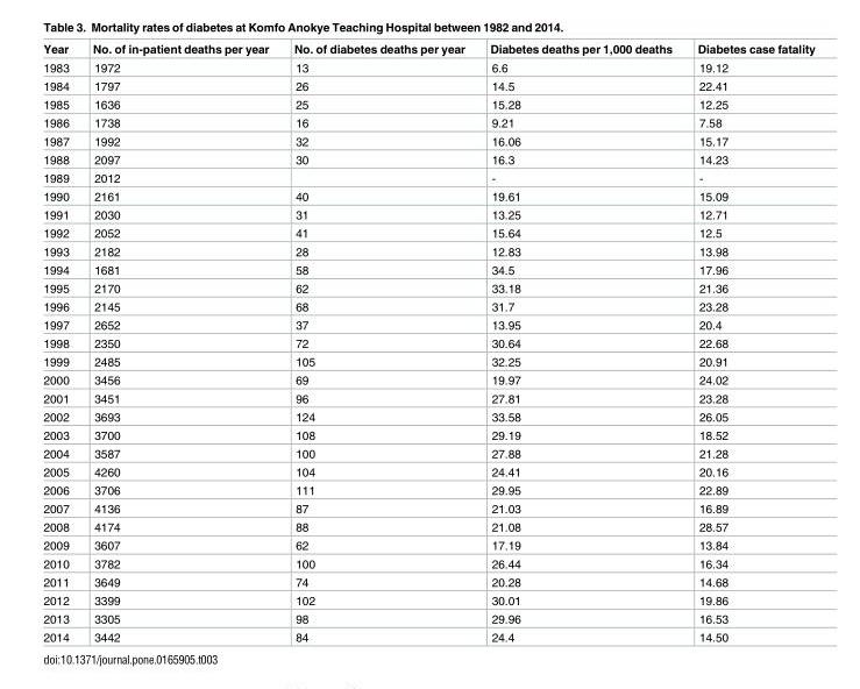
<table><thead><tr><td>Year</td><td>No. of in-patient deaths per year</td><td>No. of diabetes deaths per year</td><td>Diabetes deaths per 1,000 deaths</td><td>Diabetes case fatality</td></tr></thead><tbody><tr><td>1983</td><td>1972</td><td>13</td><td>6.6</td><td>19.12</td></tr><tr><td>1984</td><td>1797</td><td>26</td><td>14.5</td><td>22.41</td></tr><tr><td>1985</td><td>1636</td><td>25</td><td>15.28</td><td>12.25</td></tr><tr><td>1986</td><td>1738</td><td>16</td><td>9.21</td><td>7.58</td></tr><tr><td>1987</td><td>1992</td><td>32</td><td>16.06</td><td>15.17</td></tr><tr><td>1988</td><td>2097</td><td>30</td><td>16.3</td><td>14.23</td></tr><tr><td>1989</td><td>2012</td><td></td><td>-</td><td>-</td></tr><tr><td>1990</td><td>2161</td><td>40</td><td>19.61</td><td>15.09</td></tr><tr><td>1991</td><td>2030</td><td>31</td><td>13.25</td><td>12.71</td></tr><tr><td>1992</td><td>2052</td><td>41</td><td>15.64</td><td>12.5</td></tr><tr><td>1993</td><td>2182</td><td>28</td><td>12.83</td><td>13.98</td></tr><tr><td>1994</td><td>1681</td><td>58</td><td>34.5</td><td>17.96</td></tr><tr><td>1995</td><td>2170</td><td>62</td><td>33.18</td><td>21.36</td></tr><tr><td>1996</td><td>2145</td><td>68</td><td>31.7</td><td>23.28</td></tr><tr><td>1997</td><td>2652</td><td>37</td><td>13.95</td><td>20.4</td></tr><tr><td>1998</td><td>2350</td><td>72</td><td>30.64</td><td>22.68</td></tr><tr><td>1999</td><td>2485</td><td>105</td><td>32.25</td><td>20.91</td></tr><tr><td>2000</td><td>3456</td><td>69</td><td>19.97</td><td>24.02</td></tr><tr><td>2001</td><td>3451</td><td>96</td><td>27.81</td><td>23.28</td></tr><tr><td>2002</td><td>3693</td><td>124</td><td>33.58</td><td>26.05</td></tr><tr><td>2003</td><td>3700</td><td>108</td><td>29.19</td><td>18.52</td></tr><tr><td>2004</td><td>3587</td><td>100</td><td>27.88</td><td>21.28</td></tr><tr><td>2005</td><td>4260</td><td>104</td><td>24.41</td><td>20.16</td></tr><tr><td>2006</td><td>3706</td><td>111</td><td>29.95</td><td>22.89</td></tr><tr><td>2007</td><td>4136</td><td>87</td><td>21.03</td><td>16.89</td></tr><tr><td>2008</td><td>4174</td><td>88</td><td>21.08</td><td>28.57</td></tr><tr><td>2009</td><td>3607</td><td>62</td><td>17.19</td><td>13.84</td></tr><tr><td>2010</td><td>3782</td><td>100</td><td>26.44</td><td>16.34</td></tr><tr><td>2011</td><td>3649</td><td>74</td><td>20.28</td><td>14.68</td></tr><tr><td>2012</td><td>3399</td><td>102</td><td>30.01</td><td>19.86</td></tr><tr><td>2013</td><td>3305</td><td>98</td><td>29.96</td><td>16.53</td></tr><tr><td>2014</td><td>3442</td><td>84</td><td>24.4</td><td>14.50</td></tr></tbody></table>